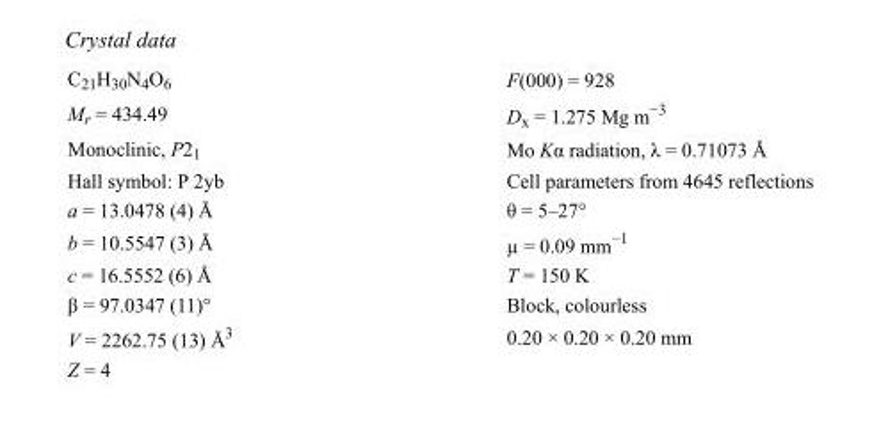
<table><tbody><tr><td>C<sub>21</sub>H<sub>30</sub>N<sub>4</sub>O<sub>6</sub></td><td>F(000) = 928</td></tr><tr><td>M<sub>r</sub> = 434.49</td><td>D<sub>x</sub> = 1.275 Mg m<sup>−3</sup></td></tr><tr><td>Monoclinic, P2<sub>1</sub></td><td>Mo Kα radiation, λ = 0.71073 Å</td></tr><tr><td>Hall symbol: P 2yb</td><td>Cell parameters from 4645 reflections</td></tr><tr><td>a = 13.0478 (4) Å</td><td>θ = 5–27°</td></tr><tr><td>b = 10.5547 (3) Å</td><td>µ = 0.09 mm<sup>−1</sup></td></tr><tr><td>c = 16.5552 (6) Å</td><td>T = 150 K</td></tr><tr><td>β = 97.0347 (11)°</td><td>Block, colourless</td></tr><tr><td>V = 2262.75 (13) Å<sup>3</sup></td><td>0.20 × 0.20 × 0.20 mm</td></tr><tr><td>Z = 4</td><td></td></tr></tbody></table>